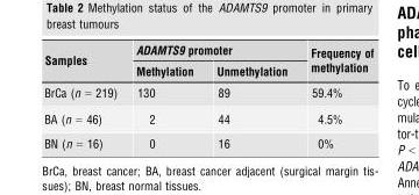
<table><thead><tr><td rowspan="2">Samples</td><td colspan="2">ADAMTS9 promoter</td><td rowspan="2">Frequency of methylation</td></tr><tr><td>Methylation</td><td>Unmethylation</td></tr></thead><tbody><tr><td>BrCa (n = 219)</td><td>130</td><td>89</td><td>59.4%</td></tr><tr><td>BA (n = 46)</td><td>2</td><td>44</td><td>4.5%</td></tr><tr><td>BN (n = 16)</td><td>0</td><td>16</td><td>0%</td></tr></tbody></table>